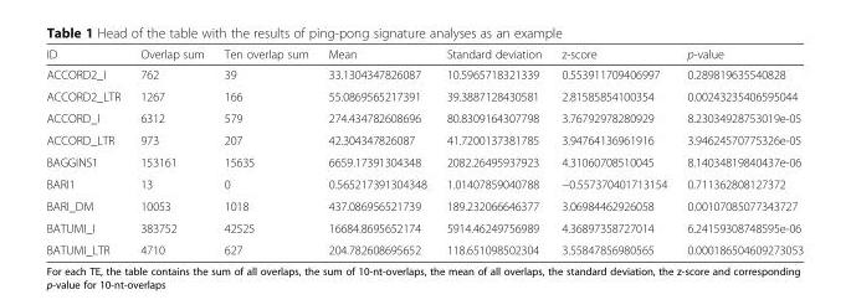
<table><thead><tr><td>ID</td><td>Overlap sum</td><td>Ten overlap sum</td><td>Mean</td><td>Standard deviation</td><td>z-score</td><td>p-value</td></tr></thead><tbody><tr><td>ACCORD2_I</td><td>762</td><td>39</td><td>33.1304347826087</td><td>10.5965718321339</td><td>0.553911709406997</td><td>0.289819635540828</td></tr><tr><td>ACCORD2_LTR</td><td>1267</td><td>166</td><td>55.0869565217391</td><td>39.3887128430581</td><td>2.81585854100354</td><td>0.00243235406595044</td></tr><tr><td>ACCORD_I</td><td>6312</td><td>579</td><td>274.434782608696</td><td>80.8309164307798</td><td>3.76792978280929</td><td>8.23034928753019e-05</td></tr><tr><td>ACCORD_LTR</td><td>973</td><td>207</td><td>42.304347826087</td><td>41.7200137381785</td><td>3.94764136961916</td><td>3.94624570775326e-05</td></tr><tr><td>BAGGINS1</td><td>153161</td><td>15635</td><td>6659.17391304348</td><td>2082.26495937923</td><td>4.31060708510045</td><td>8.14034819840437e-06</td></tr><tr><td>BARI1</td><td>13</td><td>0</td><td>0.565217391304348</td><td>1.01407859040788</td><td>−0.557370401713154</td><td>0.711362808127372</td></tr><tr><td>BARI_DM</td><td>10053</td><td>1018</td><td>437.086956521739</td><td>189.232066646377</td><td>3.06984462926058</td><td>0.00107085077343727</td></tr><tr><td>BATUMI_I</td><td>383752</td><td>42525</td><td>16684.8695652174</td><td>5914.46249756989</td><td>4.36897358727014</td><td>6.24159308748595e-06</td></tr><tr><td>BATUMI_LTR</td><td>4710</td><td>627</td><td>204.782608695652</td><td>118.651098502304</td><td>3.55847856980565</td><td>0.000186504609273053</td></tr></tbody></table>